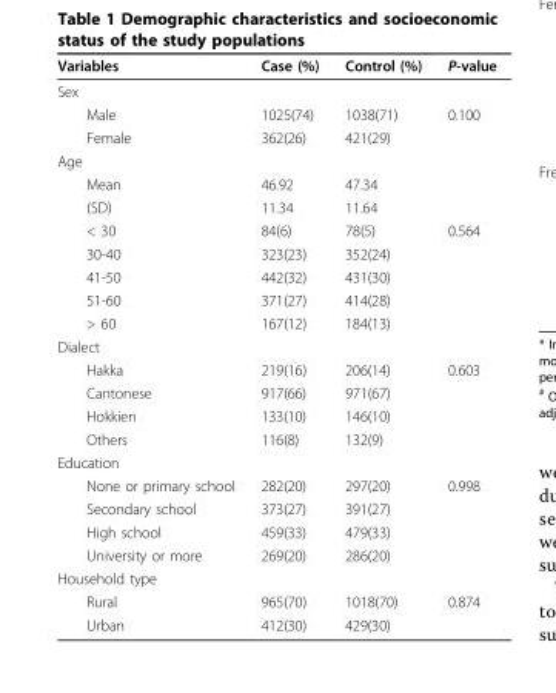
<table><thead><tr><td>Variables</td><td>Case (%)</td><td>Control (%)</td><td>P-value</td></tr></thead><tbody><tr><td colspan="4">Sex</td></tr><tr><td>Male</td><td>1025(74)</td><td>1038(71)</td><td>0.100</td></tr><tr><td>Female</td><td>362(26)</td><td>421(29)</td><td></td></tr><tr><td colspan="4">Age</td></tr><tr><td>Mean</td><td>46.92</td><td>47.34</td><td></td></tr><tr><td>(SD)</td><td>11.34</td><td>11.64</td><td></td></tr><tr><td>&lt; 30</td><td>84(6)</td><td>78(5)</td><td>0.564</td></tr><tr><td>30-40</td><td>323(23)</td><td>352(24)</td><td></td></tr><tr><td>41-50</td><td>442(32)</td><td>431(30)</td><td></td></tr><tr><td>51-60</td><td>371(27)</td><td>414(28)</td><td></td></tr><tr><td>&gt; 60</td><td>167(12)</td><td>184(13)</td><td></td></tr><tr><td colspan="4">Dialect</td></tr><tr><td>Hakka</td><td>219(16)</td><td>206(14)</td><td>0.603</td></tr><tr><td>Cantonese</td><td>917(66)</td><td>971(67)</td><td></td></tr><tr><td>Hokkien</td><td>133(10)</td><td>146(10)</td><td></td></tr><tr><td>Others</td><td>116(8)</td><td>132(9)</td><td></td></tr><tr><td colspan="4">Education</td></tr><tr><td>None or primary school</td><td>282(20)</td><td>297(20)</td><td>0.998</td></tr><tr><td>Secondary school</td><td>373(27)</td><td>391(27)</td><td></td></tr><tr><td>High school</td><td>459(33)</td><td>479(33)</td><td></td></tr><tr><td>University or more</td><td>269(20)</td><td>286(20)</td><td></td></tr><tr><td colspan="4">Household type</td></tr><tr><td>Rural</td><td>965(70)</td><td>1018(70)</td><td>0.874</td></tr><tr><td>Urban</td><td>412(30)</td><td>429(30)</td><td></td></tr></tbody></table>